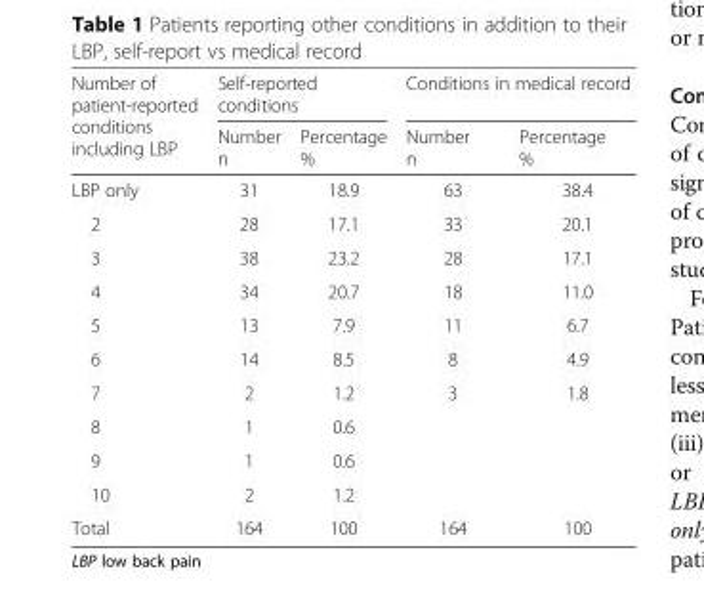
<table><thead><tr><td rowspan="2">Number of patient-reported conditions including LBP</td><td colspan="2">Self-reported conditions</td><td colspan="2">Conditions in medical record</td></tr><tr><td>Number n</td><td>Percentage %</td><td>Number n</td><td>Percentage %</td></tr></thead><tbody><tr><td>LBP only</td><td>31</td><td>18.9</td><td>63</td><td>38.4</td></tr><tr><td>2</td><td>28</td><td>17.1</td><td>33</td><td>20.1</td></tr><tr><td>3</td><td>38</td><td>23.2</td><td>28</td><td>17.1</td></tr><tr><td>4</td><td>34</td><td>20.7</td><td>18</td><td>11.0</td></tr><tr><td>5</td><td>13</td><td>7.9</td><td>11</td><td>6.7</td></tr><tr><td>6</td><td>14</td><td>8.5</td><td>8</td><td>4.9</td></tr><tr><td>7</td><td>2</td><td>1.2</td><td>3</td><td>1.8</td></tr><tr><td>8</td><td>1</td><td>0.6</td><td></td><td></td></tr><tr><td>9</td><td>1</td><td>0.6</td><td></td><td></td></tr><tr><td>10</td><td>2</td><td>1.2</td><td></td><td></td></tr><tr><td>Total</td><td>164</td><td>100</td><td>164</td><td>100</td></tr></tbody></table>